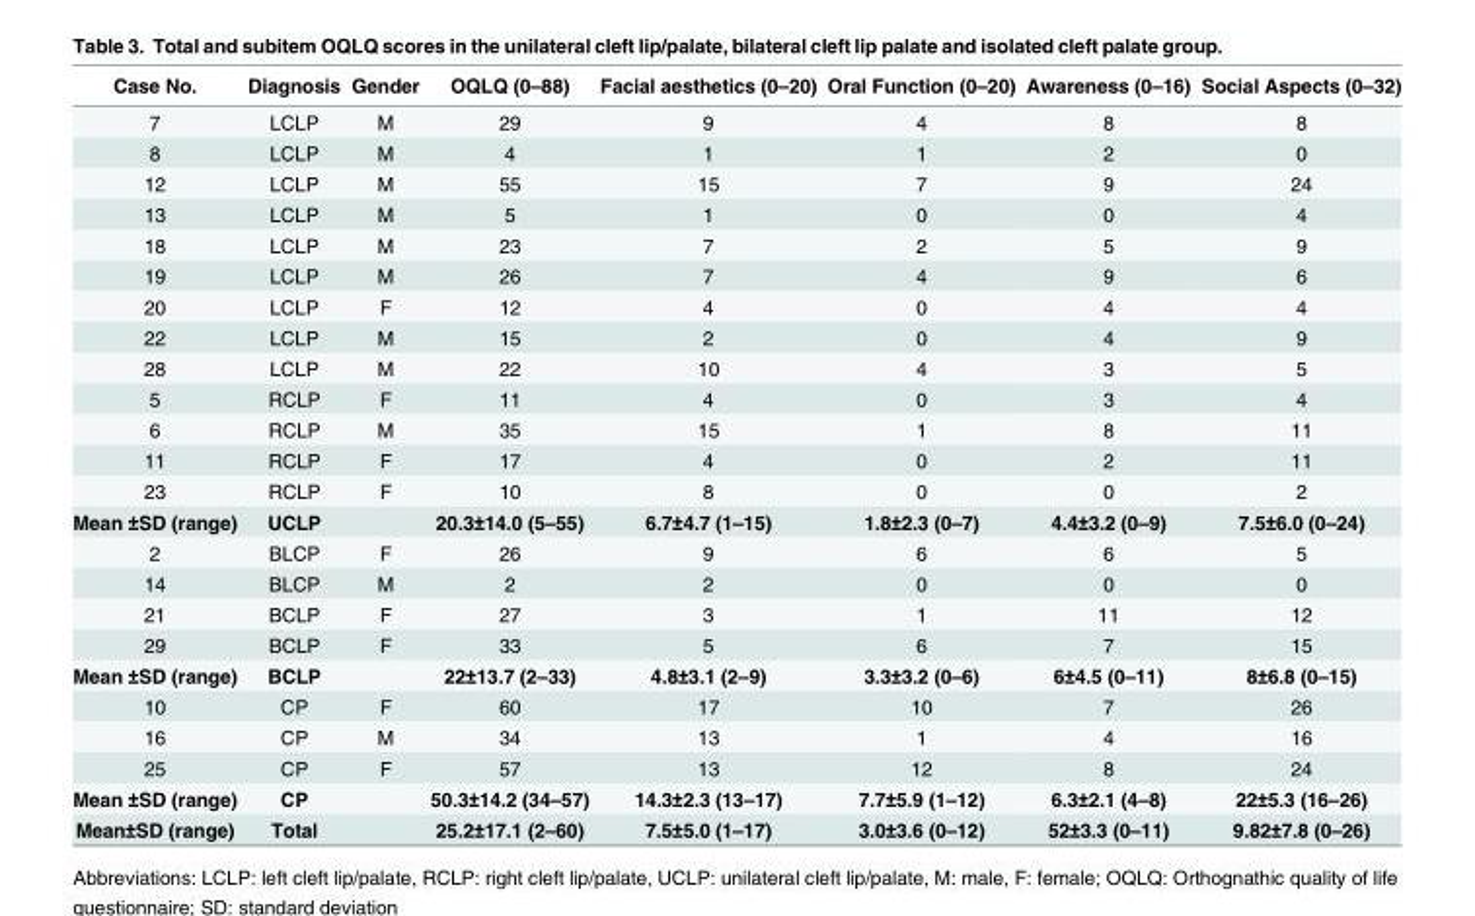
<table><thead><tr><td>Case No.</td><td>Diagnosis</td><td>Gender</td><td>OQLQ (0–88)</td><td>Facial aesthetics (0–20)</td><td>Oral Function (0–20)</td><td>Awareness (0–16)</td><td>Social Aspects (0–32)</td></tr></thead><tbody><tr><td>7</td><td>LCLP</td><td>M</td><td>29</td><td>9</td><td>4</td><td>8</td><td>8</td></tr><tr><td>8</td><td>LCLP</td><td>M</td><td>4</td><td>1</td><td>1</td><td>2</td><td>0</td></tr><tr><td>12</td><td>LCLP</td><td>M</td><td>55</td><td>15</td><td>7</td><td>9</td><td>24</td></tr><tr><td>13</td><td>LCLP</td><td>M</td><td>5</td><td>1</td><td>0</td><td>0</td><td>4</td></tr><tr><td>18</td><td>LCLP</td><td>M</td><td>23</td><td>7</td><td>2</td><td>5</td><td>9</td></tr><tr><td>19</td><td>LCLP</td><td>M</td><td>26</td><td>7</td><td>4</td><td>9</td><td>6</td></tr><tr><td>20</td><td>LCLP</td><td>F</td><td>12</td><td>4</td><td>0</td><td>4</td><td>4</td></tr><tr><td>22</td><td>LCLP</td><td>M</td><td>15</td><td>2</td><td>0</td><td>4</td><td>9</td></tr><tr><td>28</td><td>LCLP</td><td>M</td><td>22</td><td>10</td><td>4</td><td>3</td><td>5</td></tr><tr><td>5</td><td>RCLP</td><td>F</td><td>11</td><td>4</td><td>0</td><td>3</td><td>4</td></tr><tr><td>6</td><td>RCLP</td><td>M</td><td>35</td><td>15</td><td>1</td><td>8</td><td>11</td></tr><tr><td>11</td><td>RCLP</td><td>F</td><td>17</td><td>4</td><td>0</td><td>2</td><td>11</td></tr><tr><td>23</td><td>RCLP</td><td>F</td><td>10</td><td>8</td><td>0</td><td>0</td><td>2</td></tr><tr><td>Mean ±SD (range)</td><td>UCLP</td><td></td><td>20.3±14.0 (5–55)</td><td>6.7±4.7 (1–15)</td><td>1.8±2.3 (0–7)</td><td>4.4±3.2 (0–9)</td><td>7.5±6.0 (0–24)</td></tr><tr><td>2</td><td>BLCP</td><td>F</td><td>26</td><td>9</td><td>6</td><td>6</td><td>5</td></tr><tr><td>14</td><td>BLCP</td><td>M</td><td>2</td><td>2</td><td>0</td><td>0</td><td>0</td></tr><tr><td>21</td><td>BCLP</td><td>F</td><td>27</td><td>3</td><td>1</td><td>11</td><td>12</td></tr><tr><td>29</td><td>BCLP</td><td>F</td><td>33</td><td>5</td><td>6</td><td>7</td><td>15</td></tr><tr><td>Mean ±SD (range)</td><td>BCLP</td><td></td><td>22±13.7 (2–33)</td><td>4.8±3.1 (2–9)</td><td>3.3±3.2 (0–6)</td><td>6±4.5 (0–11)</td><td>8±6.8 (0–15)</td></tr><tr><td>10</td><td>CP</td><td>F</td><td>60</td><td>17</td><td>10</td><td>7</td><td>26</td></tr><tr><td>16</td><td>CP</td><td>M</td><td>34</td><td>13</td><td>1</td><td>4</td><td>16</td></tr><tr><td>25</td><td>CP</td><td>F</td><td>57</td><td>13</td><td>12</td><td>8</td><td>24</td></tr><tr><td>Mean ±SD (range)</td><td>CP</td><td></td><td>50.3±14.2 (34–57)</td><td>14.3±2.3 (13–17)</td><td>7.7±5.9 (1–12)</td><td>6.3±2.1 (4–8)</td><td>22±5.3 (16–26)</td></tr><tr><td>Mean±SD (range)</td><td>Total</td><td></td><td>25.2±17.1 (2–60)</td><td>7.5±5.0 (1–17)</td><td>3.0±3.6 (0–12)</td><td>52±3.3 (0–11)</td><td>9.82±7.8 (0–26)</td></tr></tbody></table>